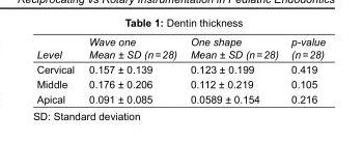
<table><tbody><tr><td>Level</td><td>Wave one Mean ± SD (n = 28)</td><td>One shape Mean ± SD (n = 28)</td><td>p-value (n = 28)</td></tr><tr><td>Cervical</td><td>0.157 ± 0.139</td><td>0.123 ± 0.199</td><td>0.419</td></tr><tr><td>Middle</td><td>0.176 ± 0.206</td><td>0.112 ± 0.219</td><td>0.105</td></tr><tr><td>Apical</td><td>0.091 ± 0.085</td><td>0.0589 ± 0.154</td><td>0.216</td></tr></tbody></table>